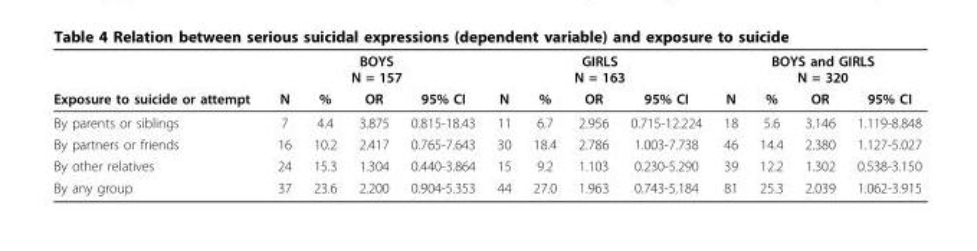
<table><thead><tr><td rowspan="2">Exposure to suicide or attempt</td><td colspan="4">BOYS N = 157</td><td colspan="4">GIRLS N = 163</td><td colspan="4">BOYS and GIRLS N = 320</td></tr><tr><td>N</td><td>%</td><td>OR</td><td>95% CI</td><td>N</td><td>%</td><td>OR</td><td>95% CI</td><td>N</td><td>%</td><td>OR</td><td>95% CI</td></tr></thead><tbody><tr><td>By parents or siblings</td><td>7</td><td>4.4</td><td>3.875</td><td>0.815-18.43</td><td>11</td><td>6.7</td><td>2.956</td><td>0.715-12.224</td><td>18</td><td>5.6</td><td>3.146</td><td>1.119-8.848</td></tr><tr><td>By partners or friends</td><td>16</td><td>10.2</td><td>2.417</td><td>0.765-7.643</td><td>30</td><td>18.4</td><td>2.786</td><td>1.003-7.738</td><td>46</td><td>14.4</td><td>2.380</td><td>1.127-5.027</td></tr><tr><td>By other relatives</td><td>24</td><td>15.3</td><td>1.304</td><td>0.440-3.864</td><td>15</td><td>9.2</td><td>1.103</td><td>0.230-5.290</td><td>39</td><td>12.2</td><td>1.302</td><td>0.538-3.150</td></tr><tr><td>By any group</td><td>37</td><td>23.6</td><td>2.200</td><td>0.904-5.353</td><td>44</td><td>27.0</td><td>1.963</td><td>0.743-5.184</td><td>81</td><td>25.3</td><td>2.039</td><td>1.062-3.915</td></tr></tbody></table>